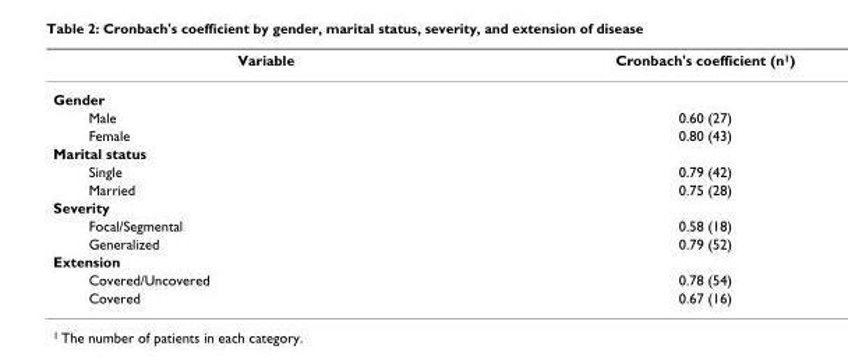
<table><thead><tr><td>Variable</td><td>Cronbach&#x27;s coefficient (n<sup>1</sup>)</td></tr></thead><tbody><tr><td colspan="2">Gender</td></tr><tr><td>Male</td><td>0.60 (27)</td></tr><tr><td>Female</td><td>0.80 (43)</td></tr><tr><td colspan="2">Marital status</td></tr><tr><td>Single</td><td>0.79 (42)</td></tr><tr><td>Married</td><td>0.75 (28)</td></tr><tr><td colspan="2">Severity</td></tr><tr><td>Focal/Segmental</td><td>0.58 (18)</td></tr><tr><td>Generalized</td><td>0.79 (52)</td></tr><tr><td colspan="2">Extension</td></tr><tr><td>Covered/Uncovered</td><td>0.78 (54)</td></tr><tr><td>Covered</td><td>0.67 (16)</td></tr></tbody></table>